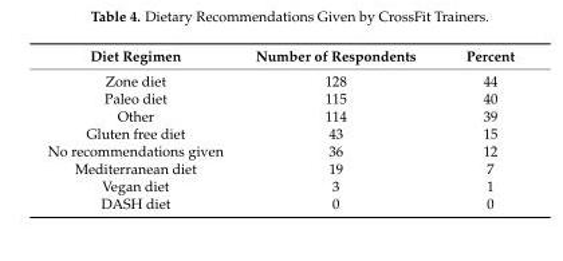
<table><thead><tr><td>Diet Regimen</td><td>Number of Respondents</td><td>Percent</td></tr></thead><tbody><tr><td>Zone diet</td><td>128</td><td>44</td></tr><tr><td>Paleo diet</td><td>115</td><td>40</td></tr><tr><td>Other</td><td>114</td><td>39</td></tr><tr><td>Gluten free diet</td><td>43</td><td>15</td></tr><tr><td>No recommendations given</td><td>36</td><td>12</td></tr><tr><td>Mediterranean diet</td><td>19</td><td>7</td></tr><tr><td>Vegan diet</td><td>3</td><td>1</td></tr><tr><td>DASH diet</td><td>0</td><td>0</td></tr></tbody></table>